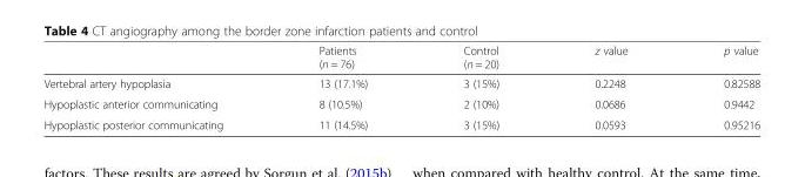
<table><thead><tr><td></td><td>Patients (n = 76)</td><td>Control (n = 20)</td><td>z value</td><td>p value</td></tr></thead><tbody><tr><td>Vertebral artery hypoplasia</td><td>13 (17.1%)</td><td>3 (15%)</td><td>0.2248</td><td>0.82588</td></tr><tr><td>Hypoplastic anterior communicating</td><td>8 (10.5%)</td><td>2 (10%)</td><td>0.0686</td><td>0.9442</td></tr><tr><td>Hypoplastic posterior communicating</td><td>11 (14.5%)</td><td>3 (15%)</td><td>0.0593</td><td>0.95216</td></tr></tbody></table>